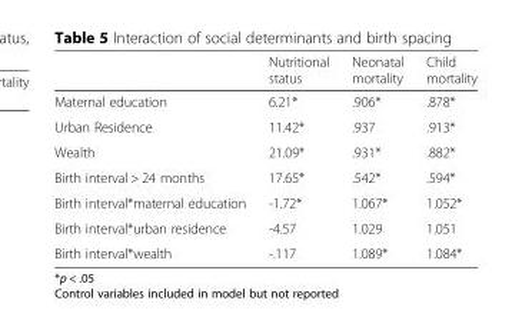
<table><thead><tr><td></td><td>Nutritional status</td><td>Neonatal mortality</td><td>Child mortality</td></tr></thead><tbody><tr><td>Maternal education</td><td>6.21*</td><td>.906*</td><td>.878*</td></tr><tr><td>Urban Residence</td><td>11.42*</td><td>.937</td><td>.913*</td></tr><tr><td>Wealth</td><td>21.09*</td><td>.931*</td><td>.882*</td></tr><tr><td>Birth interval &gt; 24 months</td><td>17.65*</td><td>.542*</td><td>.594*</td></tr><tr><td>Birth interval*maternal education</td><td>-1.72*</td><td>1.067*</td><td>1.052*</td></tr><tr><td>Birth interval*urban residence</td><td>-4.57</td><td>1.029</td><td>1.051</td></tr><tr><td>Birth interval*wealth</td><td>-.117</td><td>1.089*</td><td>1.084*</td></tr></tbody></table>